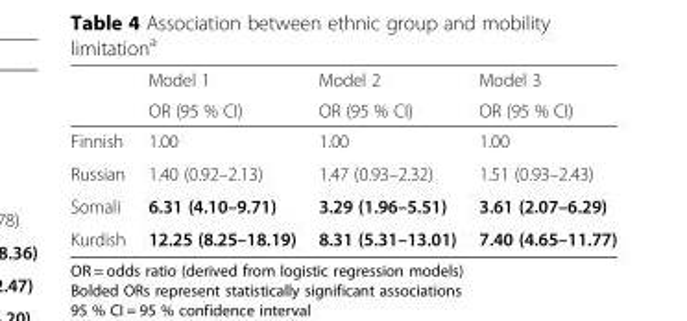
<table><thead><tr><td rowspan="2"></td><td rowspan="2">Model 1 OR (95 % CI)</td><td rowspan="2">Model 2 OR (95 % CI)</td><td rowspan="2">Model 3 OR (95 % CI)</td></tr><tr></tr></thead><tbody><tr><td>Finnish</td><td>1.00</td><td>1.00</td><td>1.00</td></tr><tr><td>Russian</td><td>1.40 (0.92–2.13)</td><td>1.47 (0.93–2.32)</td><td>1.51 (0.93–2.43)</td></tr><tr><td>Somali</td><td>6.31 (4.10–9.71)</td><td>3.29 (1.96–5.51)</td><td>3.61 (2.07–6.29)</td></tr><tr><td>Kurdish</td><td>12.25 (8.25–18.19)</td><td>8.31 (5.31–13.01)</td><td>7.40 (4.65–11.77)</td></tr></tbody></table>